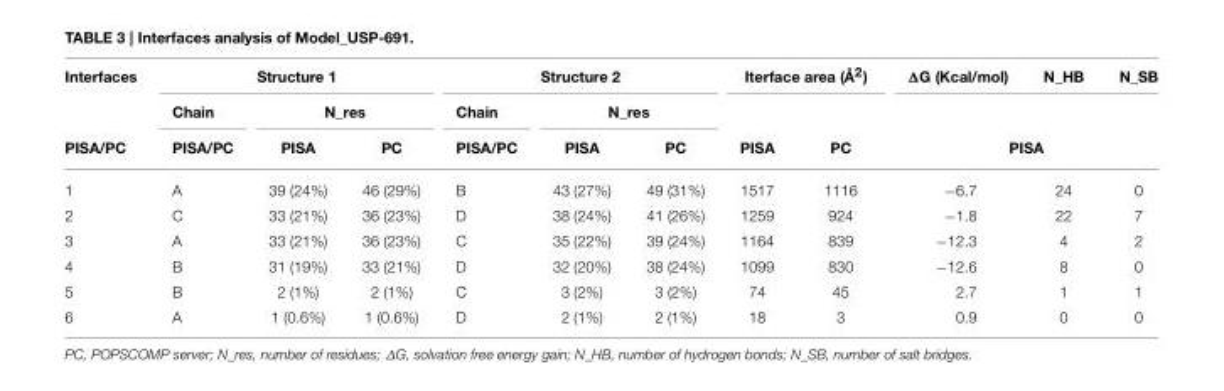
<table><thead><tr><td rowspan="3">Interfaces PISA/PC</td><td colspan="3">Structure 1</td><td colspan="3">Structure 2</td><td colspan="2">Iterface area (Å<sup>2</sup>)</td><td rowspan="2">ΔG (Kcal/mol)</td><td rowspan="2">N_HB</td><td rowspan="2">N_SB</td></tr><tr><td rowspan="2">Chain PISA/PC</td><td colspan="2">N_res</td><td rowspan="2">Chain PISA/PC</td><td colspan="2">N_res</td><td rowspan="2">PISA</td><td rowspan="2">PC</td></tr><tr><td>PISA</td><td>PC</td><td>PISA</td><td>PC</td><td colspan="3">PISA</td></tr></thead><tbody><tr><td>1</td><td>A</td><td>39 (24%)</td><td>46 (29%)</td><td>B</td><td>43 (27%)</td><td>49 (31%)</td><td>1517</td><td>1116</td><td>−6.7</td><td>24</td><td>0</td></tr><tr><td>2</td><td>C</td><td>33 (21%)</td><td>36 (23%)</td><td>D</td><td>38 (24%)</td><td>41 (26%)</td><td>1259</td><td>924</td><td>−1.8</td><td>22</td><td>7</td></tr><tr><td>3</td><td>A</td><td>33 (21%)</td><td>36 (23%)</td><td>C</td><td>35 (22%)</td><td>39 (24%)</td><td>1164</td><td>839</td><td>−12.3</td><td>4</td><td>2</td></tr><tr><td>4</td><td>B</td><td>31 (19%)</td><td>33 (21%)</td><td>D</td><td>32 (20%)</td><td>38 (24%)</td><td>1099</td><td>830</td><td>−12.6</td><td>8</td><td>0</td></tr><tr><td>5</td><td>B</td><td>2 (1%)</td><td>2 (1%)</td><td>C</td><td>3 (2%)</td><td>3 (2%)</td><td>74</td><td>45</td><td>2.7</td><td>1</td><td>1</td></tr><tr><td>6</td><td>A</td><td>1 (0.6%)</td><td>1 (0.6%)</td><td>D</td><td>2 (1%)</td><td>2 (1%)</td><td>18</td><td>3</td><td>0.9</td><td>0</td><td>0</td></tr></tbody></table>